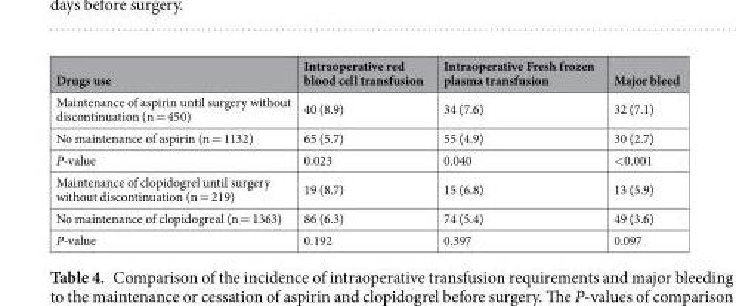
<table><thead><tr><td>Drugs use</td><td>Intraoperative red blood cell transfusion</td><td>Intraoperative Fresh frozen plasma transfusion</td><td>Major bleed</td></tr></thead><tbody><tr><td>Maintenance of aspirin until surgery without discontinuation (n = 450)</td><td>40 (8.9)</td><td>34 (7.6)</td><td>32 (7.1)</td></tr><tr><td>No maintenance of aspirin (n = 1132)</td><td>65 (5.7)</td><td>55 (4.9)</td><td>30 (2.7)</td></tr><tr><td>P-value</td><td>0.023</td><td>0.040</td><td>&lt;0.001</td></tr><tr><td>Maintenance of clopidogrel until surgery without discontinuation (n = 219)</td><td>19 (8.7)</td><td>15 (6.8)</td><td>13 (5.9)</td></tr><tr><td>No maintenance of clopidogreal (n = 1363)</td><td>86 (6.3)</td><td>74 (5.4)</td><td>49 (3.6)</td></tr><tr><td>P-value</td><td>0.192</td><td>0.397</td><td>0.097</td></tr></tbody></table>